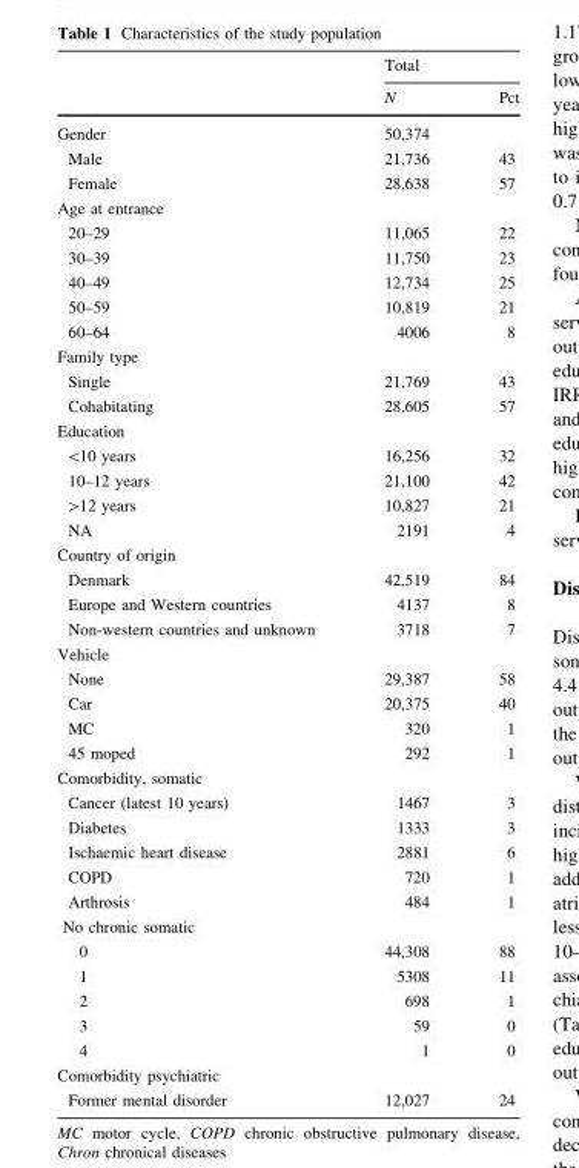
<table><thead><tr><td rowspan="2"></td><td colspan="2">Total</td></tr><tr><td>N</td><td>Pct</td></tr></thead><tbody><tr><td>Gender</td><td>50,374</td><td></td></tr><tr><td>Male</td><td>21,736</td><td>43</td></tr><tr><td>Female</td><td>28,638</td><td>57</td></tr><tr><td colspan="3">Age at entrance</td></tr><tr><td>20–29</td><td>11,065</td><td>22</td></tr><tr><td>30–39</td><td>11,750</td><td>23</td></tr><tr><td>40–49</td><td>12,734</td><td>25</td></tr><tr><td>50–59</td><td>10,819</td><td>21</td></tr><tr><td>60–64</td><td>4006</td><td>8</td></tr><tr><td colspan="3">Family type</td></tr><tr><td>Single</td><td>21,769</td><td>43</td></tr><tr><td>Cohabitating</td><td>28,605</td><td>57</td></tr><tr><td colspan="3">Education</td></tr><tr><td>&lt;10 years</td><td>16,256</td><td>32</td></tr><tr><td>10–12 years</td><td>21,100</td><td>42</td></tr><tr><td>&gt;12 years</td><td>10,827</td><td>21</td></tr><tr><td>NA</td><td>2191</td><td>4</td></tr><tr><td colspan="3">Country of origin</td></tr><tr><td>Denmark</td><td>42,519</td><td>84</td></tr><tr><td>Europe and Western countries</td><td>4137</td><td>8</td></tr><tr><td>Non-western countries and unknown</td><td>3718</td><td>7</td></tr><tr><td colspan="3">Vehicle</td></tr><tr><td>None</td><td>29,387</td><td>58</td></tr><tr><td>Car</td><td>20,375</td><td>40</td></tr><tr><td>MC</td><td>320</td><td>1</td></tr><tr><td>45 moped</td><td>292</td><td>1</td></tr><tr><td colspan="3">Comorbidity, somatic</td></tr><tr><td>Cancer (latest 10 years)</td><td>1467</td><td>3</td></tr><tr><td>Diabetes</td><td>1333</td><td>3</td></tr><tr><td>Ischaemic heart disease</td><td>2881</td><td>6</td></tr><tr><td>COPD</td><td>720</td><td>1</td></tr><tr><td>Arthrosis</td><td>484</td><td>1</td></tr><tr><td colspan="3">No chronic somatic</td></tr><tr><td>0</td><td>44,308</td><td>88</td></tr><tr><td>1</td><td>5308</td><td>11</td></tr><tr><td>2</td><td>698</td><td>1</td></tr><tr><td>3</td><td>59</td><td>0</td></tr><tr><td>4</td><td>1</td><td>0</td></tr><tr><td colspan="3">Comorbidity psychiatric</td></tr><tr><td>Former mental disorder</td><td>12,027</td><td>24</td></tr></tbody></table>